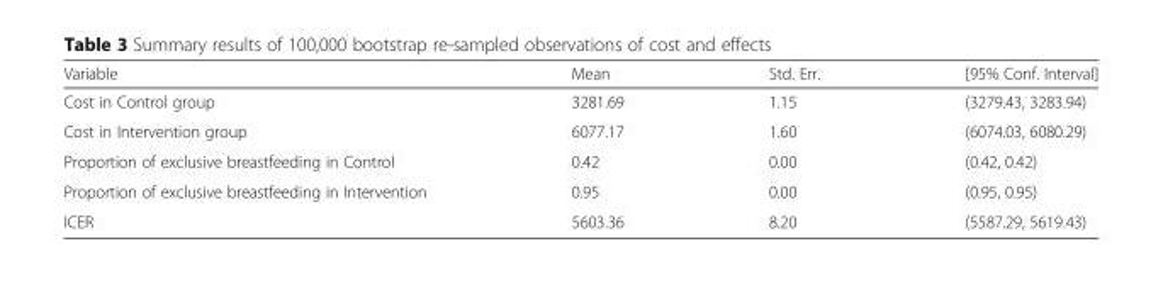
<table><thead><tr><td>Variable</td><td>Mean</td><td>Std. Err.</td><td>[95% Conf. Interval]</td></tr></thead><tbody><tr><td>Cost in Control group</td><td>3281.69</td><td>1.15</td><td>(3279.43, 3283.94)</td></tr><tr><td>Cost in Intervention group</td><td>6077.17</td><td>1.60</td><td>(6074.03, 6080.29)</td></tr><tr><td>Proportion of exclusive breastfeeding in Control</td><td>0.42</td><td>0.00</td><td>(0.42, 0.42)</td></tr><tr><td>Proportion of exclusive breastfeeding in Intervention</td><td>0.95</td><td>0.00</td><td>(0.95, 0.95)</td></tr><tr><td>ICER</td><td>5603.36</td><td>8.20</td><td>(5587.29, 5619.43)</td></tr></tbody></table>